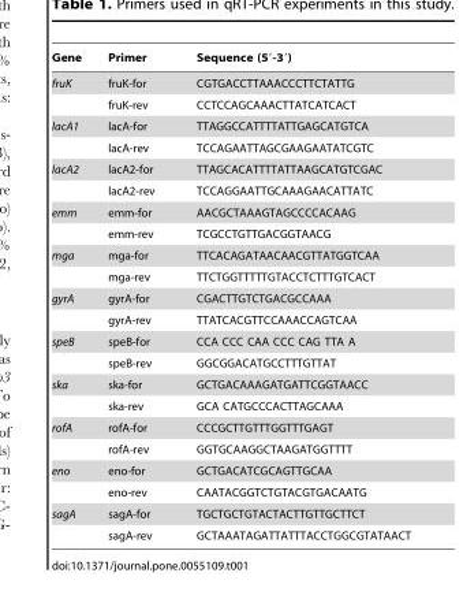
<table><thead><tr><td>Gene</td><td>Primer</td><td>Sequence (5′-3′)</td></tr></thead><tbody><tr><td rowspan="2">fruK</td><td>fruK-for</td><td>CGTGACCTTAAACCCTTCTATTG</td></tr><tr><td>fruK-rev</td><td>CCTCCAGCAAACTTATCATCACT</td></tr><tr><td rowspan="2">lacA1</td><td>lacA-for</td><td>TTAGGCCATTTTATTGAGCATGTCA</td></tr><tr><td>lacA-rev</td><td>TCCAGAATTAGCGAAGAATATCGTC</td></tr><tr><td rowspan="2">lacA2</td><td>lacA2-for</td><td>TTAGCACATTTTATTAAGCATGTCGAC</td></tr><tr><td>lacA2-rev</td><td>TCCAGGAATTGCAAAGAACATTATC</td></tr><tr><td rowspan="2">emm</td><td>emm-for</td><td>AACGCTAAAGTAGCCCCACAAG</td></tr><tr><td>emm-rev</td><td>TCGCCTGTTGACGGTAACG</td></tr><tr><td rowspan="2">mga</td><td>mga-for</td><td>TTCACAGATAACAACGTTATGGTCAA</td></tr><tr><td>mga-rev</td><td>TTCTGGTTTTTGTACCTCTTTGTCACT</td></tr><tr><td rowspan="2">gyrA</td><td>gyrA-for</td><td>CGACTTGTCTGACGCCAAA</td></tr><tr><td>gyrA-rev</td><td>TTATCACGTTCCAAACCAGTCAA</td></tr><tr><td rowspan="2">speB</td><td>speB-for</td><td>CCA CCC CAA CCC CAG TTA A</td></tr><tr><td>speB-rev</td><td>GGCGGACATGCCTTTGTTAT</td></tr><tr><td rowspan="2">ska</td><td>ska-for</td><td>GCTGACAAAGATGATTCGGTAACC</td></tr><tr><td>ska-rev</td><td>GCA CATGCCCACTTAGCAAA</td></tr><tr><td rowspan="2">rofA</td><td>rofA-for</td><td>CCCGCTTGTTTGGTTTGAGT</td></tr><tr><td>rofA-rev</td><td>GGTGCAAGGCTAAGATGGTTTT</td></tr><tr><td rowspan="2">eno</td><td>eno-for</td><td>GCTGACATCGCAGTTGCAA</td></tr><tr><td>eno-rev</td><td>CAATACGGTCTGTACGTGACAATG</td></tr><tr><td rowspan="2">sagA</td><td>sagA-for</td><td>TGCTGCTGTACTACTTGTTGCTTCT</td></tr><tr><td>sagA-rev</td><td>GCTAAATAGATTATTTACCTGGCGTATAACT</td></tr></tbody></table>